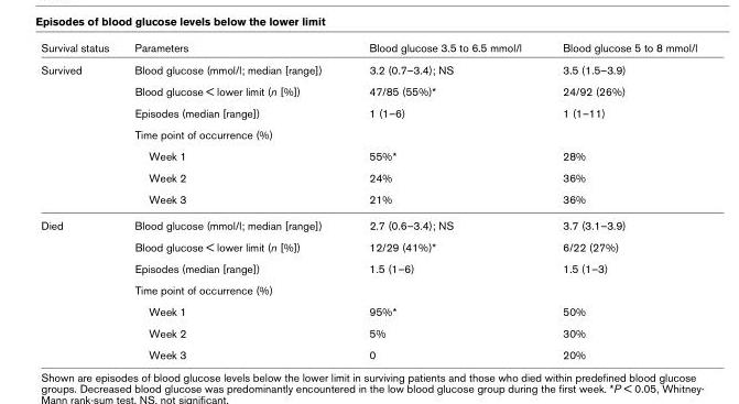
<table><thead><tr><td>Survival status</td><td>Parameters</td><td>Blood glucose 3.5 to 6.5 mmol/l</td><td>Blood glucose 5 to 8 mmol/l</td></tr></thead><tbody><tr><td rowspan="7">Survived</td><td>Blood glucose (mmol/l; median [range])</td><td>3.2 (0.7–3.4); NS</td><td>3.5 (1.5–3.9)</td></tr><tr><td>Blood glucose &lt; lower limit (n [%])</td><td>47/85 (55%)*</td><td>24/92 (26%)</td></tr><tr><td>Episodes (median [range])</td><td>1 (1–6)</td><td>1 (1–11)</td></tr><tr><td>Time point of occurrence (%)</td><td></td><td></td></tr><tr><td>Week 1</td><td>55%*</td><td>28%</td></tr><tr><td>Week 2</td><td>24%</td><td>36%</td></tr><tr><td>Week 3</td><td>21%</td><td>36%</td></tr><tr><td rowspan="7">Died</td><td>Blood glucose (mmol/l; median [range])</td><td>2.7 (0.6–3.4); NS</td><td>3.7 (3.1–3.9)</td></tr><tr><td>Blood glucose &lt; lower limit (n [%])</td><td>12/29 (41%)*</td><td>6/22 (27%)</td></tr><tr><td>Episodes (median [range])</td><td>1.5 (1–6)</td><td>1.5 (1–3)</td></tr><tr><td>Time point of occurrence (%)</td><td></td><td></td></tr><tr><td>Week 1</td><td>95%*</td><td>50%</td></tr><tr><td>Week 2</td><td>5%</td><td>30%</td></tr><tr><td>Week 3</td><td>0</td><td>20%</td></tr></tbody></table>